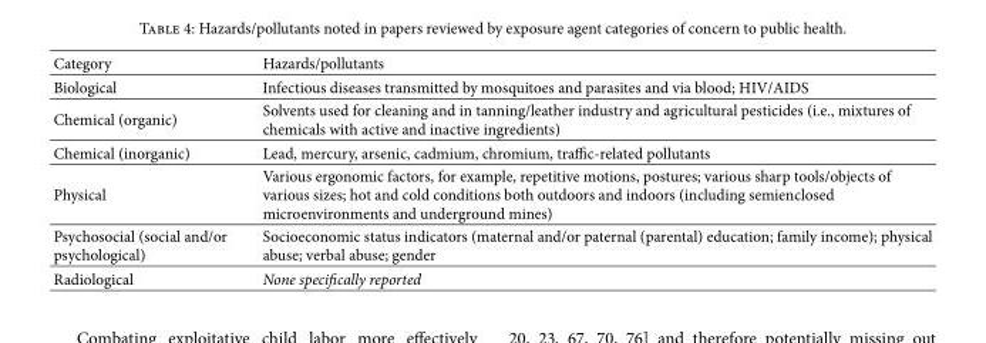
<table><thead><tr><td>Category</td><td>Hazards/pollutants</td></tr></thead><tbody><tr><td>Biological</td><td>Infectious diseases transmitted by mosquitoes and parasites and via blood; HIV/AIDS</td></tr><tr><td>Chemical (organic)</td><td>Solvents used for cleaning and in tanning/leather industry and agricultural pesticides (i.e., mixtures of chemicals with active and inactive ingredients)</td></tr><tr><td>Chemical (inorganic)</td><td>Lead, mercury, arsenic, cadmium, chromium, traffic-related pollutants</td></tr><tr><td>Physical</td><td>Various ergonomic factors, for example, repetitive motions, postures; various sharp tools/objects of various sizes; hot and cold conditions both outdoors and indoors (including semienclosed microenvironments and underground mines)</td></tr><tr><td>Psychosocial (social and/or psychological)</td><td>Socioeconomic status indicators (maternal and/or paternal (parental) education; family income); physical abuse; verbal abuse; gender</td></tr><tr><td>Radiological</td><td>None specifically reported</td></tr></tbody></table>